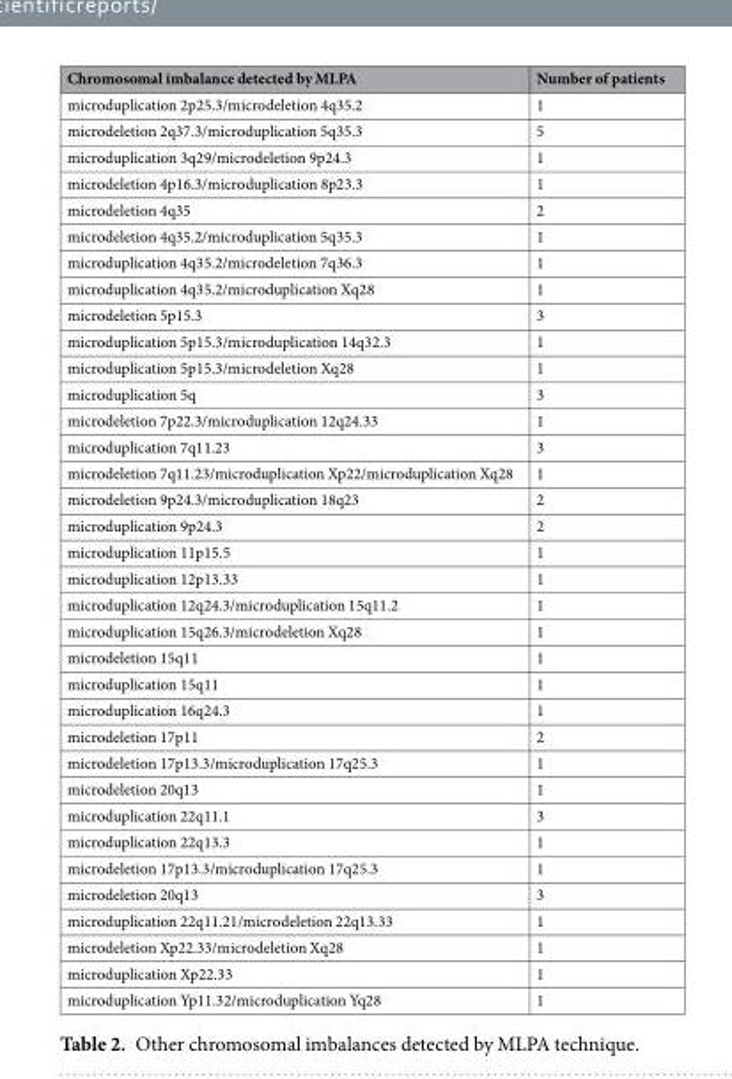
<table><thead><tr><td>Chromosomal imbalance detected by MLPA</td><td>Number of patients</td></tr></thead><tbody><tr><td>microduplication 2p25.3/microdeletion 4q35.2</td><td>1</td></tr><tr><td>microdeletion 2q37.3/microduplication 5q35.3</td><td>5</td></tr><tr><td>microduplication 3q29/microdeletion 9p24.3</td><td>1</td></tr><tr><td>microdeletion 4p16.3/microduplication 8p23.3</td><td>1</td></tr><tr><td>microdeletion 4q35</td><td>2</td></tr><tr><td>microdeletion 4q35.2/microduplication 5q35.3</td><td>1</td></tr><tr><td>microduplication 4q35.2/microdeletion 7q36.3</td><td>1</td></tr><tr><td>microduplication 4q35.2/microduplication Xq28</td><td>1</td></tr><tr><td>microdeletion 5p15.3</td><td>3</td></tr><tr><td>microduplication 5p15.3/microduplication 14q32.3</td><td>1</td></tr><tr><td>microduplication 5p15.3/microdeletion Xq28</td><td>1</td></tr><tr><td>microduplication 5q</td><td>3</td></tr><tr><td>microdeletion 7p22.3/microduplication 12q24.33</td><td>1</td></tr><tr><td>microduplication 7q11.23</td><td>3</td></tr><tr><td>microdeletion 7q11.23/microduplication Xp22/microduplication Xq28</td><td>1</td></tr><tr><td>microdeletion 9p24.3/microduplication 18q23</td><td>2</td></tr><tr><td>microduplication 9p24.3</td><td>2</td></tr><tr><td>microduplication 11p15.5</td><td>1</td></tr><tr><td>microduplication 12p13.33</td><td>1</td></tr><tr><td>microduplication 12q24.3/microduplication 15q11.2</td><td>1</td></tr><tr><td>microduplication 15q26.3/microdeletion Xq28</td><td>1</td></tr><tr><td>microdeletion 15q11</td><td>1</td></tr><tr><td>microduplication 15q11</td><td>1</td></tr><tr><td>microduplication 16q24.3</td><td>1</td></tr><tr><td>microdeletion 17p11</td><td>2</td></tr><tr><td>microdeletion 17p13.3/microduplication 17q25.3</td><td>1</td></tr><tr><td>microdeletion 20q13</td><td>1</td></tr><tr><td>microduplication 22q11.1</td><td>3</td></tr><tr><td>microduplication 22q13.3</td><td>1</td></tr><tr><td>microdeletion 17p13.3/microduplication 17q25.3</td><td>1</td></tr><tr><td>microdeletion 20q13</td><td>3</td></tr><tr><td>microduplication 22q11.21/microdeletion 22q13.33</td><td>1</td></tr><tr><td>microdeletion Xp22.33/microdeletion Xq28</td><td>1</td></tr><tr><td>microduplication Xp22.33</td><td>1</td></tr><tr><td>microduplication Yp11.32/microduplication Yq28</td><td>1</td></tr></tbody></table>